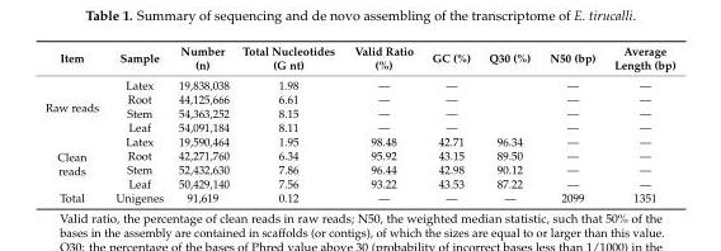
<table><thead><tr><td>Item</td><td>Sample</td><td>Number (n)</td><td>Total Nucleotides (G nt)</td><td>Valid Ratio (%)</td><td>GC (%)</td><td>Q30 (%)</td><td>N50 (bp)</td><td>Average Length (bp)</td></tr></thead><tbody><tr><td rowspan="4">Raw reads</td><td>Latex</td><td>19,838,038</td><td>1.98</td><td>—</td><td>—</td><td></td><td>—</td><td>—</td></tr><tr><td>Root</td><td>44,125,666</td><td>6.61</td><td>—</td><td>—</td><td></td><td>—</td><td>—</td></tr><tr><td>Stem</td><td>54,363,252</td><td>8.15</td><td>—</td><td>—</td><td></td><td>—</td><td>—</td></tr><tr><td>Leaf</td><td>54,091,184</td><td>8.11</td><td>—</td><td>—</td><td></td><td>—</td><td>—</td></tr><tr><td rowspan="4">Clean reads</td><td>Latex</td><td>19,590,464</td><td>1.95</td><td>98.48</td><td>42.71</td><td>96.34</td><td>—</td><td>—</td></tr><tr><td>Root</td><td>42,271,760</td><td>6.34</td><td>95.92</td><td>43.15</td><td>89.50</td><td>—</td><td>—</td></tr><tr><td>Stem</td><td>52,432,630</td><td>7.86</td><td>96.44</td><td>42.98</td><td>90.12</td><td>—</td><td>—</td></tr><tr><td>Leaf</td><td>50,429,140</td><td>7.56</td><td>93.22</td><td>43.53</td><td>87.22</td><td>—</td><td>—</td></tr><tr><td>Total</td><td>Unigenes</td><td>91,619</td><td>0.12</td><td>—</td><td>—</td><td>—</td><td>2099</td><td>1351</td></tr></tbody></table>